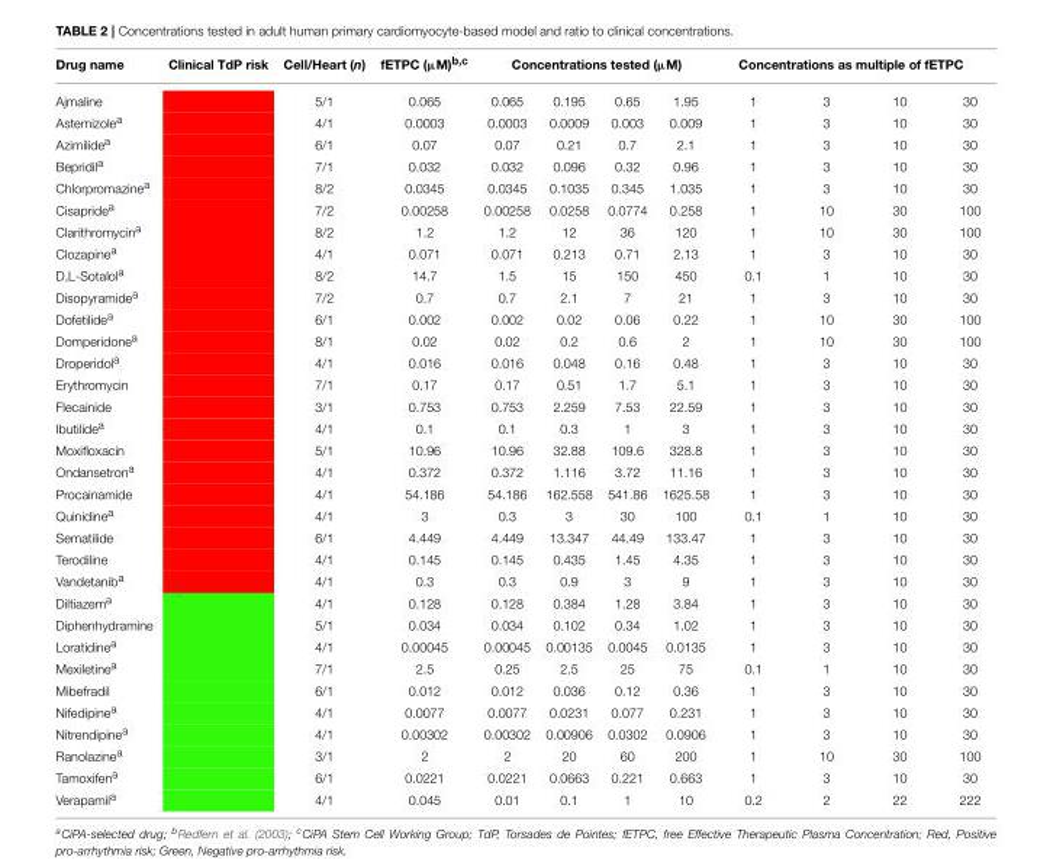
<table><thead><tr><td rowspan="2">Drug name Ajmaline</td><td rowspan="2">Clinical TdP risk</td><td rowspan="2">Cell/Heart (n) 5/1</td><td rowspan="2">fETPC (µM)<sup>b,c</sup> 0.065</td><td colspan="4">Concentrations tested (µM)</td><td colspan="4">Concentrations as multiple of fETPC</td></tr><tr><td>0.065</td><td>0.195</td><td>0.65</td><td>1.95</td><td>1</td><td>3</td><td>10</td><td>30</td></tr></thead><tbody><tr><td>Astemizole<sup>a</sup></td><td></td><td>4/1</td><td>0.0003</td><td>0.0003</td><td>0.0009</td><td>0.003</td><td>0.009</td><td>1</td><td>3</td><td>10</td><td>30</td></tr><tr><td>Azimilide<sup>a</sup></td><td></td><td>6/1</td><td>0.07</td><td>0.07</td><td>0.21</td><td>0.7</td><td>2.1</td><td>1</td><td>3</td><td>10</td><td>30</td></tr><tr><td>Bepridil<sup>a</sup></td><td></td><td>7/1</td><td>0.032</td><td>0.032</td><td>0.096</td><td>0.32</td><td>0.96</td><td>1</td><td>3</td><td>10</td><td>30</td></tr><tr><td>Chlorpromazine<sup>a</sup></td><td></td><td>8/2</td><td>0.0345</td><td>0.0345</td><td>0.1035</td><td>0.345</td><td>1.035</td><td>1</td><td>3</td><td>10</td><td>30</td></tr><tr><td>Cisapride<sup>a</sup></td><td></td><td>7/2</td><td>0.00258</td><td>0.00258</td><td>0.0258</td><td>0.0774</td><td>0.258</td><td>1</td><td>10</td><td>30</td><td>100</td></tr><tr><td>Clarithromycin<sup>a</sup></td><td></td><td>8/2</td><td>1.2</td><td>1.2</td><td>12</td><td>36</td><td>120</td><td>1</td><td>10</td><td>30</td><td>100</td></tr><tr><td>Clozapine<sup>a</sup></td><td></td><td>4/1</td><td>0.071</td><td>0.071</td><td>0.213</td><td>0.71</td><td>2.13</td><td>1</td><td>3</td><td>10</td><td>30</td></tr><tr><td>D,L-Sotalol<sup>a</sup></td><td></td><td>8/2</td><td>14.7</td><td>1.5</td><td>15</td><td>150</td><td>450</td><td>0.1</td><td>1</td><td>10</td><td>30</td></tr><tr><td>Disopyramide<sup>a</sup></td><td></td><td>7/2</td><td>0.7</td><td>0.7</td><td>2.1</td><td>7</td><td>21</td><td>1</td><td>3</td><td>10</td><td>30</td></tr><tr><td>Dofetilide<sup>a</sup></td><td></td><td>6/1</td><td>0.002</td><td>0.002</td><td>0.02</td><td>0.06</td><td>0.22</td><td>1</td><td>10</td><td>30</td><td>100</td></tr><tr><td>Domperidone<sup>a</sup></td><td></td><td>8/1</td><td>0.02</td><td>0.02</td><td>0.2</td><td>0.6</td><td>2</td><td>1</td><td>10</td><td>30</td><td>100</td></tr><tr><td>Droperidol<sup>a</sup></td><td></td><td>4/1</td><td>0.016</td><td>0.016</td><td>0.048</td><td>0.16</td><td>0.48</td><td>1</td><td>3</td><td>10</td><td>30</td></tr><tr><td>Erythromycin</td><td></td><td>7/1</td><td>0.17</td><td>0.17</td><td>0.51</td><td>1.7</td><td>5.1</td><td>1</td><td>3</td><td>10</td><td>30</td></tr><tr><td>Flecainide</td><td></td><td>3/1</td><td>0.753</td><td>0.753</td><td>2.259</td><td>7.53</td><td>22.59</td><td>1</td><td>3</td><td>10</td><td>30</td></tr><tr><td>Ibutilide<sup>a</sup></td><td></td><td>4/1</td><td>0.1</td><td>0.1</td><td>0.3</td><td>1</td><td>3</td><td>1</td><td>3</td><td>10</td><td>30</td></tr><tr><td>Moxifloxacin</td><td></td><td>5/1</td><td>10.96</td><td>10.96</td><td>32.88</td><td>109.6</td><td>328.8</td><td>1</td><td>3</td><td>10</td><td>30</td></tr><tr><td>Ondansetron<sup>a</sup></td><td></td><td>4/1</td><td>0.372</td><td>0.372</td><td>1.116</td><td>3.72</td><td>11.16</td><td>1</td><td>3</td><td>10</td><td>30</td></tr><tr><td>Procainamide</td><td></td><td>4/1</td><td>54.186</td><td>54.186</td><td>162.558</td><td>541.86</td><td>1625.58</td><td>1</td><td>3</td><td>10</td><td>30</td></tr><tr><td>Quinidine<sup>a</sup></td><td></td><td>4/1</td><td>3</td><td>0.3</td><td>3</td><td>30</td><td>100</td><td>0.1</td><td>1</td><td>10</td><td>30</td></tr><tr><td>Sematilide</td><td></td><td>6/1</td><td>4.449</td><td>4.449</td><td>13.347</td><td>44.49</td><td>133.47</td><td>1</td><td>3</td><td>10</td><td>30</td></tr><tr><td>Terodiline</td><td></td><td>4/1</td><td>0.145</td><td>0.145</td><td>0.435</td><td>1.45</td><td>4.35</td><td>1</td><td>3</td><td>10</td><td>30</td></tr><tr><td>Vandetanib<sup>a</sup></td><td></td><td>4/1</td><td>0.3</td><td>0.3</td><td>0.9</td><td>3</td><td>9</td><td>1</td><td>3</td><td>10</td><td>30</td></tr><tr><td>Diltiazem<sup>a</sup></td><td></td><td>4/1</td><td>0.128</td><td>0.128</td><td>0.384</td><td>1.28</td><td>3.84</td><td>1</td><td>3</td><td>10</td><td>30</td></tr><tr><td>Diphenhydramine</td><td></td><td>5/1</td><td>0.034</td><td>0.034</td><td>0.102</td><td>0.34</td><td>1.02</td><td>1</td><td>3</td><td>10</td><td>30</td></tr><tr><td>Loratidine<sup>a</sup></td><td></td><td>4/1</td><td>0.00045</td><td>0.00045</td><td>0.00135</td><td>0.0045</td><td>0.0135</td><td>1</td><td>3</td><td>10</td><td>30</td></tr><tr><td>Mexiletine<sup>a</sup></td><td></td><td>7/1</td><td>2.5</td><td>0.25</td><td>2.5</td><td>25</td><td>75</td><td>0.1</td><td>1</td><td>10</td><td>30</td></tr><tr><td>Mibefradil</td><td></td><td>6/1</td><td>0.012</td><td>0.012</td><td>0.036</td><td>0.12</td><td>0.36</td><td>1</td><td>3</td><td>10</td><td>30</td></tr><tr><td>Nifedipine<sup>a</sup></td><td></td><td>4/1</td><td>0.0077</td><td>0.0077</td><td>0.0231</td><td>0.077</td><td>0.231</td><td>1</td><td>3</td><td>10</td><td>30</td></tr><tr><td>Nitrendipine<sup>a</sup></td><td></td><td>4/1</td><td>0.00302</td><td>0.00302</td><td>0.00906</td><td>0.0302</td><td>0.0906</td><td>1</td><td>3</td><td>10</td><td>30</td></tr><tr><td>Ranolazine<sup>a</sup></td><td></td><td>3/1</td><td>2</td><td>2</td><td>20</td><td>60</td><td>200</td><td>1</td><td>10</td><td>30</td><td>100</td></tr><tr><td>Tamoxifen<sup>a</sup></td><td></td><td>6/1</td><td>0.0221</td><td>0.0221</td><td>0.0663</td><td>0.221</td><td>0.663</td><td>1</td><td>3</td><td>10</td><td>30</td></tr><tr><td>Verapamil<sup>a</sup></td><td></td><td>4/1</td><td>0.045</td><td>0.01</td><td>0.1</td><td>1</td><td>10</td><td>0.2</td><td>2</td><td>22</td><td>222</td></tr></tbody></table>